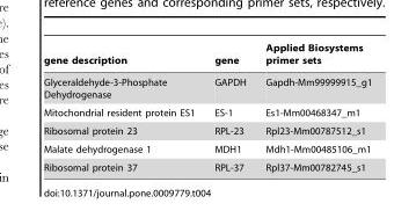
<table><thead><tr><td>gene description</td><td>gene</td><td>Applied Biosystems primer sets</td></tr></thead><tbody><tr><td>Glyceraldehyde-3-Phosphate Dehydrogenase</td><td>GAPDH</td><td>Gapdh-Mm99999915_g1</td></tr><tr><td>Mitochondrial resident protein ES1</td><td>ES-1</td><td>Es1-Mm00468347_m1</td></tr><tr><td>Ribosomal protein 23</td><td>RPL-23</td><td>Rpl23-Mm00787512_s1</td></tr><tr><td>Malate dehydrogenase 1</td><td>MDH1</td><td>Mdh1-Mm00485106_m1</td></tr><tr><td>Ribosomal protein 37</td><td>RPL-37</td><td>Rpl37-Mm00782745_s1</td></tr></tbody></table>